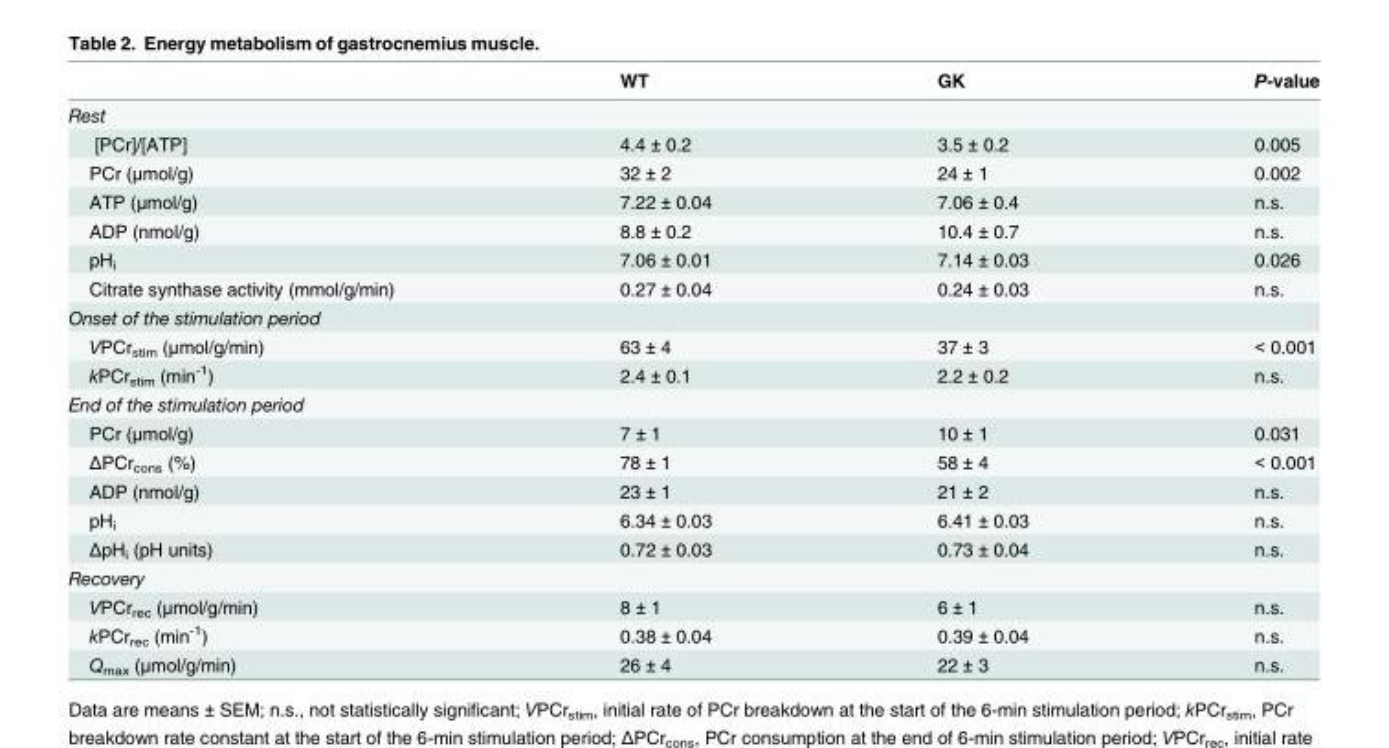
<table><thead><tr><td></td><td>WT</td><td>GK</td><td>P-value</td></tr></thead><tbody><tr><td colspan="4">Rest</td></tr><tr><td>[PCr]/[ATP]</td><td>4.4 ± 0.2</td><td>3.5 ± 0.2</td><td>0.005</td></tr><tr><td>PCr (μmol/g)</td><td>32 ± 2</td><td>24 ± 1</td><td>0.002</td></tr><tr><td>ATP (μmol/g)</td><td>7.22 ± 0.04</td><td>7.06 ± 0.4</td><td>n.s.</td></tr><tr><td>ADP (nmol/g)</td><td>8.8 ± 0.2</td><td>10.4 ± 0.7</td><td>n.s.</td></tr><tr><td>pH<sub>i</sub></td><td>7.06 ± 0.01</td><td>7.14 ± 0.03</td><td>0.026</td></tr><tr><td>Citrate synthase activity (mmol/g/min)</td><td>0.27 ± 0.04</td><td>0.24 ± 0.03</td><td>n.s.</td></tr><tr><td colspan="4">Onset of the stimulation period</td></tr><tr><td>VPCr<sub>stim</sub> (μmol/g/min)</td><td>63 ± 4</td><td>37 ± 3</td><td>&lt; 0.001</td></tr><tr><td>kPCr<sub>stim</sub> (min<sup>-1</sup>)</td><td>2.4 ± 0.1</td><td>2.2 ± 0.2</td><td>n.s.</td></tr><tr><td colspan="4">End of the stimulation period</td></tr><tr><td>PCr (μmol/g)</td><td>7 ± 1</td><td>10 ± 1</td><td>0.031</td></tr><tr><td>ΔPCr<sub>cons</sub> (%)</td><td>78 ± 1</td><td>58 ± 4</td><td>&lt; 0.001</td></tr><tr><td>ADP (nmol/g)</td><td>23 ± 1</td><td>21 ± 2</td><td>n.s.</td></tr><tr><td>pH<sub>i</sub></td><td>6.34 ± 0.03</td><td>6.41 ± 0.03</td><td>n.s.</td></tr><tr><td>ΔpH<sub>i</sub> (pH units)</td><td>0.72 ± 0.03</td><td>0.73 ± 0.04</td><td>n.s.</td></tr><tr><td colspan="4">Recovery</td></tr><tr><td>VPCr<sub>rec</sub> (μmol/g/min)</td><td>8 ± 1</td><td>6 ± 1</td><td>n.s.</td></tr><tr><td>kPCr<sub>rec</sub> (min<sup>-1</sup>)</td><td>0.38 ± 0.04</td><td>0.39 ± 0.04</td><td>n.s.</td></tr><tr><td>Q<sub>max</sub> (μmol/g/min)</td><td>26 ± 4</td><td>22 ± 3</td><td>n.s.</td></tr></tbody></table>